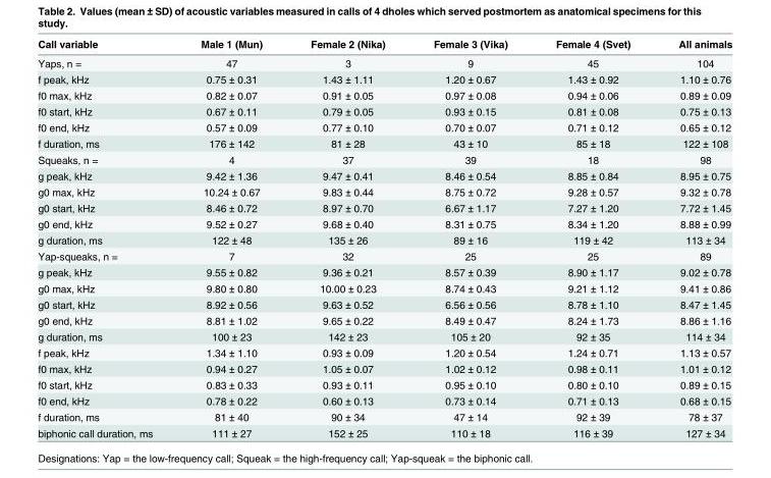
<table><thead><tr><td>Call variable</td><td>Male 1 (Mun)</td><td>Female 2 (Nika)</td><td>Female 3 (Vika)</td><td>Female 4 (Svet)</td><td>All animals</td></tr></thead><tbody><tr><td>Yaps, n =</td><td>47</td><td>3</td><td>9</td><td>45</td><td>104</td></tr><tr><td>f peak, kHz</td><td>0.75 ± 0.31</td><td>1.43 ± 1.11</td><td>1.20 ± 0.67</td><td>1.43 ± 0.92</td><td>1.10 ± 0.76</td></tr><tr><td>f0 max, kHz</td><td>0.82 ± 0.07</td><td>0.91 ± 0.05</td><td>0.97 ± 0.08</td><td>0.94 ± 0.06</td><td>0.89 ± 0.09</td></tr><tr><td>f0 start, kHz</td><td>0.67 ± 0.11</td><td>0.79 ± 0.05</td><td>0.93 ± 0.15</td><td>0.81 ± 0.08</td><td>0.75 ± 0.13</td></tr><tr><td>f0 end, kHz</td><td>0.57 ± 0.09</td><td>0.77 ± 0.10</td><td>0.70 ± 0.07</td><td>0.71 ± 0.12</td><td>0.65 ± 0.12</td></tr><tr><td>f duration, ms</td><td>176 ± 142</td><td>81 ± 28</td><td>43 ± 10</td><td>85 ± 18</td><td>122 ± 108</td></tr><tr><td>Squeaks, n =</td><td>4</td><td>37</td><td>39</td><td>18</td><td>98</td></tr><tr><td>g peak, kHz</td><td>9.42 ± 1.36</td><td>9.47 ± 0.41</td><td>8.46 ± 0.54</td><td>8.85 ± 0.84</td><td>8.95 ± 0.75</td></tr><tr><td>g0 max, kHz</td><td>10.24 ± 0.67</td><td>9.83 ± 0.44</td><td>8.75 ± 0.72</td><td>9.28 ± 0.57</td><td>9.32 ± 0.78</td></tr><tr><td>g0 start, kHz</td><td>8.46 ± 0.72</td><td>8.97 ± 0.70</td><td>6.67 ± 1.17</td><td>7.27 ± 1.20</td><td>7.72 ± 1.45</td></tr><tr><td>g0 end, kHz</td><td>9.52 ± 0.27</td><td>9.68 ± 0.40</td><td>8.31 ± 0.75</td><td>8.34 ± 1.20</td><td>8.88 ± 0.99</td></tr><tr><td>g duration, ms</td><td>122 ± 48</td><td>135 ± 26</td><td>89 ± 16</td><td>119 ± 42</td><td>113 ± 34</td></tr><tr><td>Yap-squeaks, n =</td><td>7</td><td>32</td><td>25</td><td>25</td><td>89</td></tr><tr><td>g peak, kHz</td><td>9.55 ± 0.82</td><td>9.36 ± 0.21</td><td>8.57 ± 0.39</td><td>8.90 ± 1.17</td><td>9.02 ± 0.78</td></tr><tr><td>g0 max, kHz</td><td>9.80 ± 0.80</td><td>10.00 ± 0.23</td><td>8.74 ± 0.43</td><td>9.21 ± 1.12</td><td>9.41 ± 0.86</td></tr><tr><td>g0 start, kHz</td><td>8.92 ± 0.56</td><td>9.63 ± 0.52</td><td>6.56 ± 0.56</td><td>8.78 ± 1.10</td><td>8.47 ± 1.45</td></tr><tr><td>g0 end, kHz</td><td>8.81 ± 1.02</td><td>9.65 ± 0.22</td><td>8.49 ± 0.47</td><td>8.24 ± 1.73</td><td>8.86 ± 1.16</td></tr><tr><td>g duration, ms</td><td>100 ± 23</td><td>142 ± 23</td><td>105 ± 20</td><td>92 ± 35</td><td>114 ± 34</td></tr><tr><td>f peak, kHz</td><td>1.34 ± 1.10</td><td>0.93 ± 0.09</td><td>1.20 ± 0.54</td><td>1.24 ± 0.71</td><td>1.13 ± 0.57</td></tr><tr><td>f0 max, kHz</td><td>0.94 ± 0.27</td><td>1.05 ± 0.07</td><td>1.02 ± 0.12</td><td>0.98 ± 0.11</td><td>1.01 ± 0.12</td></tr><tr><td>f0 start, kHz</td><td>0.83 ± 0.33</td><td>0.93 ± 0.11</td><td>0.95 ± 0.10</td><td>0.80 ± 0.10</td><td>0.89 ± 0.15</td></tr><tr><td>f0 end, kHz</td><td>0.78 ± 0.22</td><td>0.60 ± 0.13</td><td>0.73 ± 0.14</td><td>0.71 ± 0.13</td><td>0.68 ± 0.15</td></tr><tr><td>f duration, ms</td><td>81 ± 40</td><td>90 ± 34</td><td>47 ± 14</td><td>92 ± 39</td><td>78 ± 37</td></tr><tr><td>biphonic call duration, ms</td><td>111 ± 27</td><td>152 ± 25</td><td>110 ± 18</td><td>116 ± 39</td><td>127 ± 34</td></tr></tbody></table>